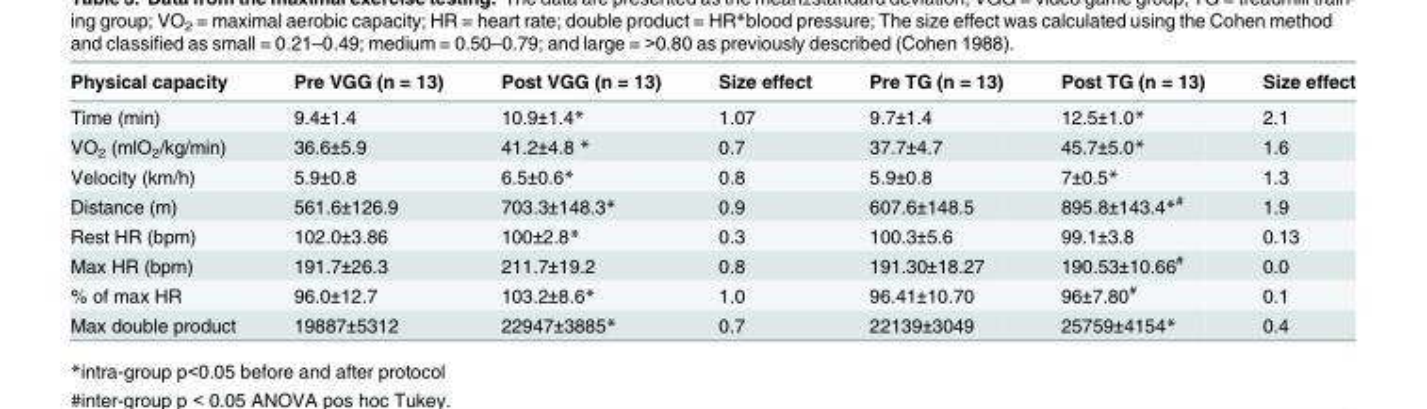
<table><thead><tr><td>Physical capacity</td><td>Pre VGG (n = 13)</td><td>Post VGG (n = 13)</td><td>Size effect</td><td>Pre TG (n = 13)</td><td>Post TG (n = 13)</td><td>Size effect</td></tr></thead><tbody><tr><td>Time (min)</td><td>9.4±1.4</td><td>10.9±1.4*</td><td>1.07</td><td>9.7±1.4</td><td>12.5±1.0*</td><td>2.1</td></tr><tr><td>VO<sub>2</sub> (mlO<sub>2</sub>/kg/min)</td><td>36.6±5.9</td><td>41.2±4.8 *</td><td>0.7</td><td>37.7±4.7</td><td>45.7±5.0*</td><td>1.6</td></tr><tr><td>Velocity (km/h)</td><td>5.9±0.8</td><td>6.5±0.6*</td><td>0.8</td><td>5.9±0.8</td><td>7±0.5*</td><td>1.3</td></tr><tr><td>Distance (m)</td><td>561.6±126.9</td><td>703.3±148.3*</td><td>0.9</td><td>607.6±148.5</td><td>895.8±143.4*<sup>#</sup></td><td>1.9</td></tr><tr><td>Rest HR (bpm)</td><td>102.0±3.86</td><td>100±2.8*</td><td>0.3</td><td>100.3±5.6</td><td>99.1±3.8</td><td>0.13</td></tr><tr><td>Max HR (bpm)</td><td>191.7±26.3</td><td>211.7±19.2</td><td>0.8</td><td>191.30±18.27</td><td>190.53±10.66<sup>#</sup></td><td>0.0</td></tr><tr><td>% of max HR</td><td>96.0±12.7</td><td>103.2±8.6*</td><td>1.0</td><td>96.41±10.70</td><td>96±7.80<sup>#</sup></td><td>0.1</td></tr><tr><td>Max double product</td><td>19887±5312</td><td>22947±3885*</td><td>0.7</td><td>22139±3049</td><td>25759±4154*</td><td>0.4</td></tr></tbody></table>